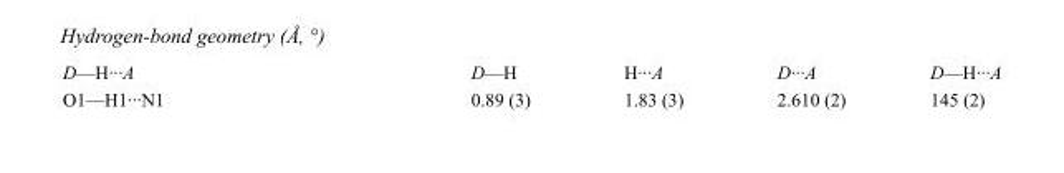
<table><tbody><tr><td>D—H···A</td><td>D—H</td><td>H···A</td><td>D···A</td><td>D—H···A</td></tr><tr><td>O1—H1···N1</td><td>0.89 (3)</td><td>1.83 (3)</td><td>2.610 (2)</td><td>145 (2)</td></tr></tbody></table>